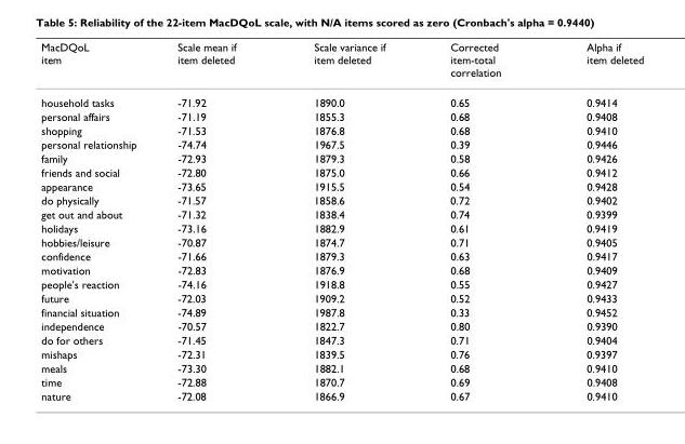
<table><thead><tr><td>MacDQoL item</td><td>Scale mean if item deleted</td><td>Scale variance if item deleted</td><td>Corrected item-total correlation</td><td>Alpha if item deleted</td></tr></thead><tbody><tr><td>household tasks</td><td>-71.92</td><td>1890.0</td><td>0.65</td><td>0.9414</td></tr><tr><td>personal affairs</td><td>-71.19</td><td>1855.3</td><td>0.68</td><td>0.9408</td></tr><tr><td>shopping</td><td>-71.53</td><td>1876.8</td><td>0.68</td><td>0.9410</td></tr><tr><td>personal relationship</td><td>-74.74</td><td>1967.5</td><td>0.39</td><td>0.9446</td></tr><tr><td>family</td><td>-72.93</td><td>1879.3</td><td>0.58</td><td>0.9426</td></tr><tr><td>friends and social</td><td>-72.80</td><td>1875.0</td><td>0.66</td><td>0.9412</td></tr><tr><td>appearance</td><td>-73.65</td><td>1915.5</td><td>0.54</td><td>0.9428</td></tr><tr><td>do physically</td><td>-71.57</td><td>1858.6</td><td>0.72</td><td>0.9402</td></tr><tr><td>get out and about</td><td>-71.32</td><td>1838.4</td><td>0.74</td><td>0.9399</td></tr><tr><td>holidays</td><td>-73.16</td><td>1882.9</td><td>0.61</td><td>0.9419</td></tr><tr><td>hobbies/leisure</td><td>-70.87</td><td>1874.7</td><td>0.71</td><td>0.9405</td></tr><tr><td>confidence</td><td>-71.66</td><td>1879.3</td><td>0.63</td><td>0.9417</td></tr><tr><td>motivation</td><td>-72.83</td><td>1876.9</td><td>0.68</td><td>0.9409</td></tr><tr><td>people&#x27;s reaction</td><td>-74.16</td><td>1918.8</td><td>0.55</td><td>0.9427</td></tr><tr><td>future</td><td>-72.03</td><td>1909.2</td><td>0.52</td><td>0.9433</td></tr><tr><td>financial situation</td><td>-74.89</td><td>1987.8</td><td>0.33</td><td>0.9452</td></tr><tr><td>independence</td><td>-70.57</td><td>1822.7</td><td>0.80</td><td>0.9390</td></tr><tr><td>do for others</td><td>-71.45</td><td>1847.3</td><td>0.71</td><td>0.9404</td></tr><tr><td>mishaps</td><td>-72.31</td><td>1839.5</td><td>0.76</td><td>0.9397</td></tr><tr><td>meals</td><td>-73.30</td><td>1882.1</td><td>0.68</td><td>0.9410</td></tr><tr><td>time</td><td>-72.88</td><td>1870.7</td><td>0.69</td><td>0.9408</td></tr><tr><td>nature</td><td>-72.08</td><td>1866.9</td><td>0.67</td><td>0.9410</td></tr></tbody></table>